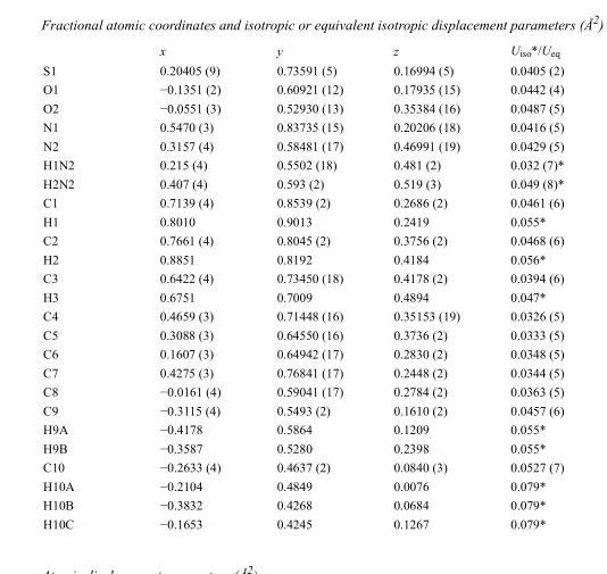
<table><thead><tr><td></td><td>x</td><td>y</td><td>z</td><td>U<sub>iso</sub>*/U<sub>eq</sub></td></tr></thead><tbody><tr><td>S1</td><td>0.20405 (9)</td><td>0.73591 (5)</td><td>0.16994 (5)</td><td>0.0405 (2)</td></tr><tr><td>O1</td><td>−0.1351 (2)</td><td>0.60921 (12)</td><td>0.17935 (15)</td><td>0.0442 (4)</td></tr><tr><td>O2</td><td>−0.0551 (3)</td><td>0.52930 (13)</td><td>0.35384 (16)</td><td>0.0487 (5)</td></tr><tr><td>N1</td><td>0.5470 (3)</td><td>0.83735 (15)</td><td>0.20206 (18)</td><td>0.0416 (5)</td></tr><tr><td>N2</td><td>0.3157 (4)</td><td>0.58481 (17)</td><td>0.46991 (19)</td><td>0.0429 (5)</td></tr><tr><td>H1N2</td><td>0.215 (4)</td><td>0.5502 (18)</td><td>0.481 (2)</td><td>0.032 (7)*</td></tr><tr><td>H2N2</td><td>0.407 (4)</td><td>0.593 (2)</td><td>0.519 (3)</td><td>0.049 (8)*</td></tr><tr><td>C1</td><td>0.7139 (4)</td><td>0.8539 (2)</td><td>0.2686 (2)</td><td>0.0461 (6)</td></tr><tr><td>H1</td><td>0.8010</td><td>0.9013</td><td>0.2419</td><td>0.055*</td></tr><tr><td>C2</td><td>0.7661 (4)</td><td>0.8045 (2)</td><td>0.3756 (2)</td><td>0.0468 (6)</td></tr><tr><td>H2</td><td>0.8851</td><td>0.8192</td><td>0.4184</td><td>0.056*</td></tr><tr><td>C3</td><td>0.6422 (4)</td><td>0.73450 (18)</td><td>0.4178 (2)</td><td>0.0394 (6)</td></tr><tr><td>H3</td><td>0.6751</td><td>0.7009</td><td>0.4894</td><td>0.047*</td></tr><tr><td>C4</td><td>0.4659 (3)</td><td>0.71448 (16)</td><td>0.35153 (19)</td><td>0.0326 (5)</td></tr><tr><td>C5</td><td>0.3088 (3)</td><td>0.64550 (16)</td><td>0.3736 (2)</td><td>0.0333 (5)</td></tr><tr><td>C6</td><td>0.1607 (3)</td><td>0.64942 (17)</td><td>0.2830 (2)</td><td>0.0348 (5)</td></tr><tr><td>C7</td><td>0.4275 (3)</td><td>0.76841 (17)</td><td>0.2448 (2)</td><td>0.0344 (5)</td></tr><tr><td>C8</td><td>−0.0161 (4)</td><td>0.59041 (17)</td><td>0.2784 (2)</td><td>0.0363 (5)</td></tr><tr><td>C9</td><td>−0.3115 (4)</td><td>0.5493 (2)</td><td>0.1610 (2)</td><td>0.0457 (6)</td></tr><tr><td>H9A</td><td>−0.4178</td><td>0.5864</td><td>0.1209</td><td>0.055*</td></tr><tr><td>H9B</td><td>−0.3587</td><td>0.5280</td><td>0.2398</td><td>0.055*</td></tr><tr><td>C10</td><td>−0.2633 (4)</td><td>0.4637 (2)</td><td>0.0840 (3)</td><td>0.0527 (7)</td></tr><tr><td>H10A</td><td>−0.2104</td><td>0.4849</td><td>0.0076</td><td>0.079*</td></tr><tr><td>H10B</td><td>−0.3832</td><td>0.4268</td><td>0.0684</td><td>0.079*</td></tr><tr><td>H10C</td><td>−0.1653</td><td>0.4245</td><td>0.1267</td><td>0.079*</td></tr></tbody></table>